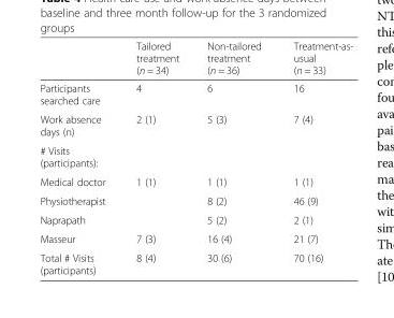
<table><thead><tr><td></td><td>Tailored treatment (n = 34)</td><td>Non-tailored treatment (n = 36)</td><td>Treatment-as- usual (n = 33)</td></tr></thead><tbody><tr><td>Participants searched care</td><td>4</td><td>6</td><td>16</td></tr><tr><td>Work absence days (n)</td><td>2 (1)</td><td>5 (3)</td><td>7 (4)</td></tr><tr><td colspan="4"># Visits (participants):</td></tr><tr><td>Medical doctor</td><td>1 (1)</td><td>1 (1)</td><td>1 (1)</td></tr><tr><td>Physiotherapist</td><td></td><td>8 (2)</td><td>46 (9)</td></tr><tr><td>Naprapath</td><td></td><td>5 (2)</td><td>2 (1)</td></tr><tr><td>Masseur</td><td>7 (3)</td><td>16 (4)</td><td>21 (7)</td></tr><tr><td>Total # Visits (participants)</td><td>8 (4)</td><td>30 (6)</td><td>70 (16)</td></tr></tbody></table>